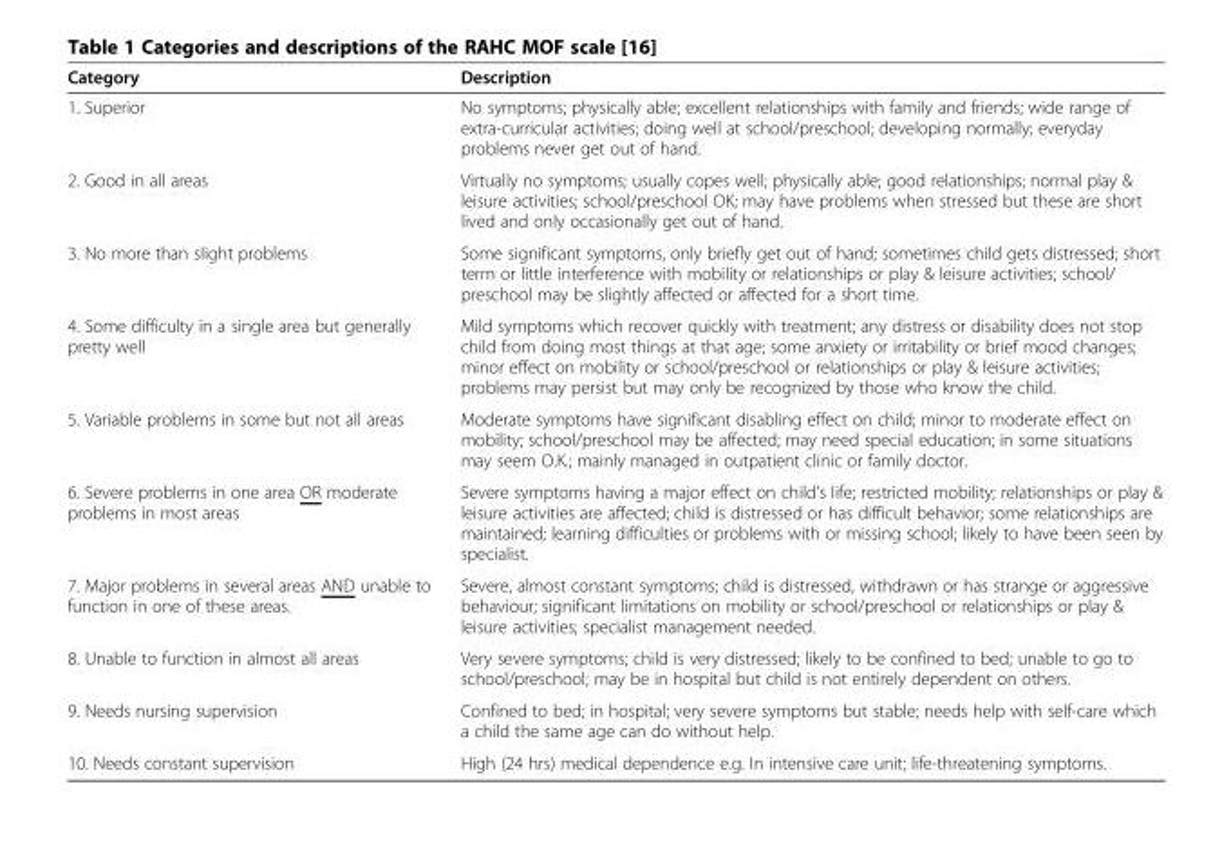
<table><thead><tr><td>Category</td><td>Description</td></tr></thead><tbody><tr><td>1. Superior</td><td>No symptoms; physically able; excellent relationships with family and friends; wide range of extra-curricular activities; doing well at school/preschool; developing normally; everyday problems never get out of hand.</td></tr><tr><td>2. Good in all areas</td><td>Virtually no symptoms; usually copes well; physically able; good relationships; normal play &amp; leisure activities; school/preschool OK; may have problems when stressed but these are short lived and only occasionally get out of hand.</td></tr><tr><td>3. No more than slight problems</td><td>Some significant symptoms, only briefly get out of hand; sometimes child gets distressed; short term or little interference with mobility or relationships or play &amp; leisure activities; school/ preschool may be slightly affected or affected for a short time.</td></tr><tr><td>4. Some difficulty in a single area but generally pretty well</td><td>Mild symptoms which recover quickly with treatment; any distress or disability does not stop child from doing most things at that age; some anxiety or irritability or brief mood changes; minor effect on mobility or school/preschool or relationships or play &amp; leisure activities; problems may persist but may only be recognized by those who know the child.</td></tr><tr><td>5. Variable problems in some but not all areas</td><td>Moderate symptoms have significant disabling effect on child; minor to moderate effect on mobility; school/preschool may be affected; may need special education; in some situations may seem O.K.; mainly managed in outpatient clinic or family doctor.</td></tr><tr><td>6. Severe problems in one area OR moderate problems in most areas</td><td>Severe symptoms having a major effect on child’s life; restricted mobility; relationships or play &amp; leisure activities are affected; child is distressed or has difficult behavior; some relationships are maintained; learning difficulties or problems with or missing school; likely to have been seen by specialist.</td></tr><tr><td>7. Major problems in several areas AND unable to function in one of these areas.</td><td>Severe, almost constant symptoms; child is distressed, withdrawn or has strange or aggressive behaviour; significant limitations on mobility or school/preschool or relationships or play &amp; leisure activities; specialist management needed.</td></tr><tr><td>8. Unable to function in almost all areas</td><td>Very severe symptoms; child is very distressed; likely to be confined to bed; unable to go to school/preschool; may be in hospital but child is not entirely dependent on others.</td></tr><tr><td>9. Needs nursing supervision</td><td>Confined to bed; in hospital; very severe symptoms but stable; needs help with self-care which a child the same age can do without help.</td></tr><tr><td>10. Needs constant supervision</td><td>High (24 hrs) medical dependence e.g. In intensive care unit; life-threatening symptoms.</td></tr></tbody></table>